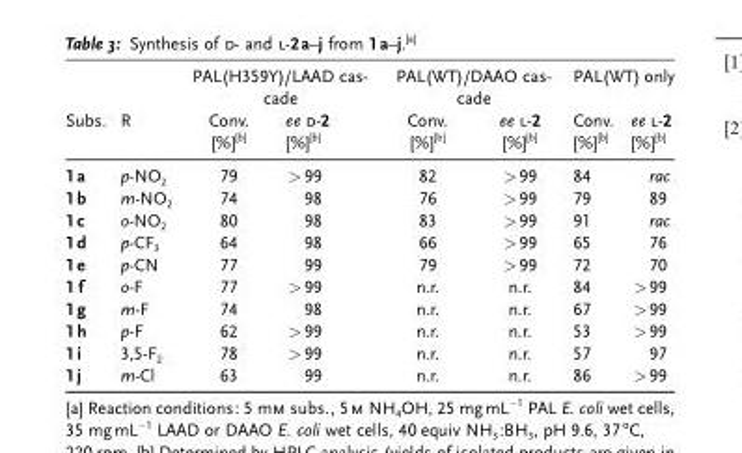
<table><thead><tr><td rowspan="2">Subs.</td><td rowspan="2">R</td><td colspan="2">PAL(H359Y)/LAAD cas- cade</td><td colspan="2">PAL(WT)/DAAO cas- cade</td><td colspan="2">PAL(WT) only</td></tr><tr><td>Conv. [%]<sup>[b]</sup></td><td>ee d-2 [%]<sup>[b]</sup></td><td>Conv. [%]<sup>[b]</sup></td><td>ee l-2 [%]<sup>[b]</sup></td><td>Conv. [%]<sup>[b]</sup></td><td>ee l-2 [%]<sup>[b]</sup></td></tr></thead><tbody><tr><td>1a</td><td>p-NO<sub>2</sub></td><td>79</td><td>&gt;99</td><td>82</td><td>&gt;99</td><td>84</td><td>rac</td></tr><tr><td>1b</td><td>m-NO<sub>2</sub></td><td>74</td><td>98</td><td>76</td><td>&gt;99</td><td>79</td><td>89</td></tr><tr><td>1c</td><td>o-NO<sub>2</sub></td><td>80</td><td>98</td><td>83</td><td>&gt;99</td><td>91</td><td>rac</td></tr><tr><td>1d</td><td>p-CF<sub>3</sub></td><td>64</td><td>98</td><td>66</td><td>&gt;99</td><td>65</td><td>76</td></tr><tr><td>1e</td><td>p-CN</td><td>77</td><td>99</td><td>79</td><td>&gt;99</td><td>72</td><td>70</td></tr><tr><td>1 f</td><td>o-F</td><td>77</td><td>&gt;99</td><td>n.r.</td><td>n.r.</td><td>84</td><td>&gt;99</td></tr><tr><td>1g</td><td>m-F</td><td>74</td><td>98</td><td>n.r.</td><td>n.r.</td><td>67</td><td>&gt;99</td></tr><tr><td>1h</td><td>p-F</td><td>62</td><td>&gt;99</td><td>n.r.</td><td>n.r.</td><td>53</td><td>&gt;99</td></tr><tr><td>1i</td><td>3,5-F<sub>2</sub></td><td>78</td><td>&gt;99</td><td>n.r.</td><td>n.r.</td><td>57</td><td>97</td></tr><tr><td>1j</td><td>m-Cl</td><td>63</td><td>99</td><td>n.r.</td><td>n.r.</td><td>86</td><td>&gt;99</td></tr></tbody></table>